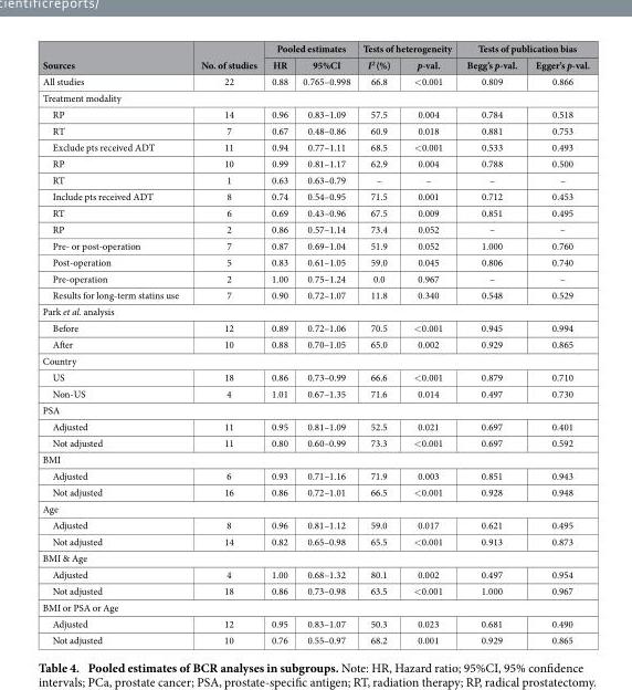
<table><thead><tr><td rowspan="2">Sources</td><td rowspan="2">No. of studies</td><td colspan="2">Pooled estimates</td><td colspan="2">Tests of heterogeneity</td><td colspan="2">Tests of publication bias</td></tr><tr><td>HR</td><td>95%CI</td><td>I<sup>2</sup> (%)</td><td>p-val.</td><td>Begg’s p-val.</td><td>Egger’s p-val.</td></tr></thead><tbody><tr><td>All studies</td><td>22</td><td>0.88</td><td>0.765–0.998</td><td>66.8</td><td>&lt; 0.001</td><td>0.809</td><td>0.866</td></tr><tr><td colspan="8">Treatment modality</td></tr><tr><td>RP</td><td>14</td><td>0.96</td><td>0.83–1.09</td><td>57.5</td><td>0.004</td><td>0.784</td><td>0.518</td></tr><tr><td>RT</td><td>7</td><td>0.67</td><td>0.48–0.86</td><td>60.9</td><td>0.018</td><td>0.881</td><td>0.753</td></tr><tr><td>Exclude pts received ADT</td><td>11</td><td>0.94</td><td>0.77–1.11</td><td>68.5</td><td>&lt; 0.001</td><td>0.533</td><td>0.493</td></tr><tr><td>RP</td><td>10</td><td>0.99</td><td>0.81–1.17</td><td>62.9</td><td>0.004</td><td>0.788</td><td>0.500</td></tr><tr><td>RT</td><td>1</td><td>0.63</td><td>0.63–0.79</td><td>–</td><td>–</td><td>–</td><td>–</td></tr><tr><td>Include pts received ADT</td><td>8</td><td>0.74</td><td>0.54–0.95</td><td>71.5</td><td>0.001</td><td>0.712</td><td>0.453</td></tr><tr><td>RT</td><td>6</td><td>0.69</td><td>0.43–0.96</td><td>67.5</td><td>0.009</td><td>0.851</td><td>0.495</td></tr><tr><td>RP</td><td>2</td><td>0.86</td><td>0.57–1.14</td><td>73.4</td><td>0.052</td><td>–</td><td>–</td></tr><tr><td>Pre- or post-operation</td><td>7</td><td>0.87</td><td>0.69–1.04</td><td>51.9</td><td>0.052</td><td>1.000</td><td>0.760</td></tr><tr><td>Post-operation</td><td>5</td><td>0.83</td><td>0.61–1.05</td><td>59.0</td><td>0.045</td><td>0.806</td><td>0.740</td></tr><tr><td>Pre-operation</td><td>2</td><td>1.00</td><td>0.75–1.24</td><td>0.0</td><td>0.967</td><td>–</td><td>–</td></tr><tr><td>Results for long-term statins use</td><td>7</td><td>0.90</td><td>0.72–1.07</td><td>11.8</td><td>0.340</td><td>0.548</td><td>0.529</td></tr><tr><td colspan="8">Park et al. analysis</td></tr><tr><td>Before</td><td>12</td><td>0.89</td><td>0.72–1.06</td><td>70.5</td><td>&lt; 0.001</td><td>0.945</td><td>0.994</td></tr><tr><td>After</td><td>10</td><td>0.88</td><td>0.70–1.05</td><td>65.0</td><td>0.002</td><td>0.929</td><td>0.865</td></tr><tr><td colspan="8">Country</td></tr><tr><td>US</td><td>18</td><td>0.86</td><td>0.73–0.99</td><td>66.6</td><td>&lt; 0.001</td><td>0.879</td><td>0.710</td></tr><tr><td>Non-US</td><td>4</td><td>1.01</td><td>0.67–1.35</td><td>71.6</td><td>0.014</td><td>0.497</td><td>0.730</td></tr><tr><td colspan="8">PSA</td></tr><tr><td>Adjusted</td><td>11</td><td>0.95</td><td>0.81–1.09</td><td>52.5</td><td>0.021</td><td>0.697</td><td>0.401</td></tr><tr><td>Not adjusted</td><td>11</td><td>0.80</td><td>0.60–0.99</td><td>73.3</td><td>&lt; 0.001</td><td>0.697</td><td>0.592</td></tr><tr><td colspan="8">BMI</td></tr><tr><td>Adjusted</td><td>6</td><td>0.93</td><td>0.71–1.16</td><td>71.9</td><td>0.003</td><td>0.851</td><td>0.943</td></tr><tr><td>Not adjusted</td><td>16</td><td>0.86</td><td>0.72–1.01</td><td>66.5</td><td>&lt; 0.001</td><td>0.928</td><td>0.948</td></tr><tr><td colspan="8">Age</td></tr><tr><td>Adjusted</td><td>8</td><td>0.96</td><td>0.81–1.12</td><td>59.0</td><td>0.017</td><td>0.621</td><td>0.495</td></tr><tr><td>Not adjusted</td><td>14</td><td>0.82</td><td>0.65–0.98</td><td>65.5</td><td>&lt; 0.001</td><td>0.913</td><td>0.873</td></tr><tr><td colspan="8">BMI &amp; Age</td></tr><tr><td>Adjusted</td><td>4</td><td>1.00</td><td>0.68–1.32</td><td>80.1</td><td>0.002</td><td>0.497</td><td>0.954</td></tr><tr><td>Not adjusted</td><td>18</td><td>0.86</td><td>0.73–0.98</td><td>63.5</td><td>&lt; 0.001</td><td>1.000</td><td>0.967</td></tr><tr><td colspan="8">BMI or PSA or Age</td></tr><tr><td>Adjusted</td><td>12</td><td>0.95</td><td>0.83–1.07</td><td>50.3</td><td>0.023</td><td>0.681</td><td>0.490</td></tr><tr><td>Not adjusted</td><td>10</td><td>0.76</td><td>0.55–0.97</td><td>68.2</td><td>0.001</td><td>0.929</td><td>0.865</td></tr></tbody></table>